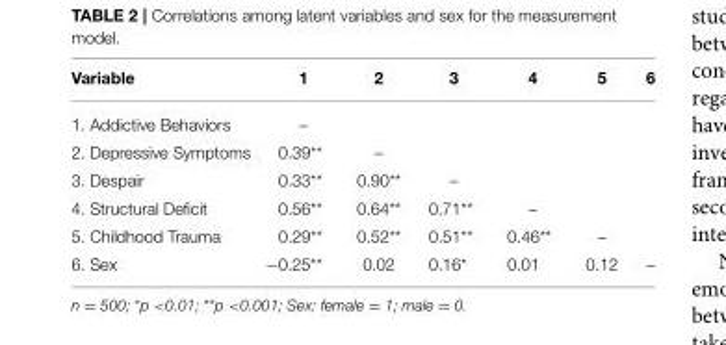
<table><thead><tr><td>Variable</td><td>1</td><td>2</td><td>3</td><td>4</td><td>5</td><td>6</td></tr></thead><tbody><tr><td>1. Addictive Behaviors</td><td>–</td><td></td><td></td><td></td><td></td><td></td></tr><tr><td>2. Depressive Symptoms</td><td>0.39**</td><td>–</td><td></td><td></td><td></td><td></td></tr><tr><td>3. Despair</td><td>0.33**</td><td>0.90**</td><td>–</td><td></td><td></td><td></td></tr><tr><td>4. Structural Deficit</td><td>0.56**</td><td>0.64**</td><td>0.71**</td><td>–</td><td></td><td></td></tr><tr><td>5. Childhood Trauma</td><td>0.29**</td><td>0.52**</td><td>0.51**</td><td>0.46**</td><td>–</td><td></td></tr><tr><td>6. Sex</td><td>−0.25**</td><td>0.02</td><td>0.16*</td><td>0.01</td><td>0.12</td><td>–</td></tr></tbody></table>